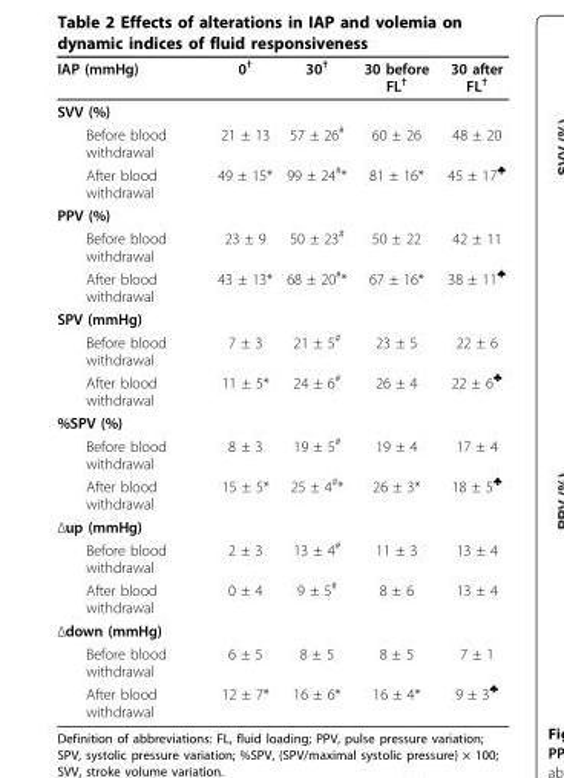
<table><thead><tr><td>IAP (mmHg)</td><td>0<sup>†</sup></td><td>30<sup>†</sup></td><td>30 before FL<sup>†</sup></td><td>30 after FL<sup>†</sup></td></tr></thead><tbody><tr><td colspan="5">SVV (%)</td></tr><tr><td>Before blood withdrawal</td><td>21 ± 13</td><td>57 ± 26<sup>#</sup></td><td>60 ± 26</td><td>48 ± 20</td></tr><tr><td>After blood withdrawal</td><td>49 ± 15*</td><td>99 ± 24<sup>#</sup>*</td><td>81 ± 16*</td><td>45 ± 17<sup>♣</sup></td></tr><tr><td colspan="5">PPV (%)</td></tr><tr><td>Before blood withdrawal</td><td>23 ± 9</td><td>50 ± 23<sup>#</sup></td><td>50 ± 22</td><td>42 ± 11</td></tr><tr><td>After blood withdrawal</td><td>43 ± 13*</td><td>68 ± 20<sup>#</sup>*</td><td>67 ± 16*</td><td>38 ± 11<sup>♣</sup></td></tr><tr><td colspan="5">SPV (mmHg)</td></tr><tr><td>Before blood withdrawal</td><td>7 ± 3</td><td>21 ± 5<sup>#</sup></td><td>23 ± 5</td><td>22 ± 6</td></tr><tr><td>After blood withdrawal</td><td>11 ± 5*</td><td>24 ± 6<sup>#</sup></td><td>26 ± 4</td><td>22 ± 6<sup>♣</sup></td></tr><tr><td colspan="5">%SPV (%)</td></tr><tr><td>Before blood withdrawal</td><td>8 ± 3</td><td>19 ± 5<sup>#</sup></td><td>19 ± 4</td><td>17 ± 4</td></tr><tr><td>After blood withdrawal</td><td>15 ± 5*</td><td>25 ± 4<sup>#</sup>*</td><td>26 ± 3*</td><td>18 ± 5<sup>♣</sup></td></tr><tr><td colspan="5">Δup (mmHg)</td></tr><tr><td>Before blood withdrawal</td><td>2 ± 3</td><td>13 ± 4<sup>#</sup></td><td>11 ± 3</td><td>13 ± 4</td></tr><tr><td>After blood withdrawal</td><td>0 ± 4</td><td>9 ± 5<sup>#</sup></td><td>8 ± 6</td><td>13 ± 4</td></tr><tr><td colspan="5">Δdown (mmHg)</td></tr><tr><td>Before blood withdrawal</td><td>6 ± 5</td><td>8 ± 5</td><td>8 ± 5</td><td>7 ± 1</td></tr><tr><td>After blood withdrawal</td><td>12 ± 7*</td><td>16 ± 6*</td><td>16 ± 4*</td><td>9 ± 3<sup>♣</sup></td></tr></tbody></table>